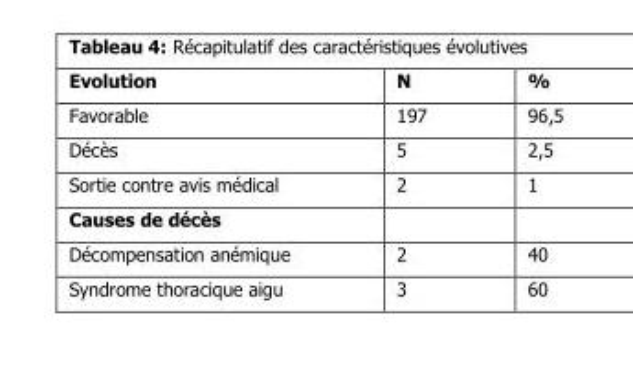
<table><thead><tr><td>Evolution</td><td>N</td><td>%</td></tr></thead><tbody><tr><td>Favorable</td><td>197</td><td>96,5</td></tr><tr><td>Décès</td><td>5</td><td>2,5</td></tr><tr><td>Sortie contre avis médical</td><td>2</td><td>1</td></tr><tr><td colspan="3">Causes de décès</td></tr><tr><td>Décompensation anémique</td><td>2</td><td>40</td></tr><tr><td>Syndrome thoracique aigu</td><td>3</td><td>60</td></tr></tbody></table>